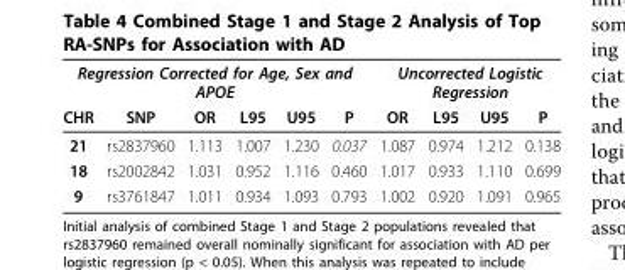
<table><thead><tr><td colspan="6">Regression Corrected for Age, Sex and APOE</td><td colspan="4">Uncorrected Logistic Regression</td></tr><tr><td>CHR</td><td>SNP</td><td>OR</td><td>L95</td><td>U95</td><td>P</td><td>OR</td><td>L95</td><td>U95</td><td>P</td></tr></thead><tbody><tr><td>21</td><td>rs2837960</td><td>1.113</td><td>1.007</td><td>1.230</td><td>0.037</td><td>1.087</td><td>0.974</td><td>1.212</td><td>0.138</td></tr><tr><td>18</td><td>rs2002842</td><td>1.031</td><td>0.952</td><td>1.116</td><td>0.460</td><td>1.017</td><td>0.933</td><td>1.110</td><td>0.699</td></tr><tr><td>9</td><td>rs3761847</td><td>1.011</td><td>0.934</td><td>1.093</td><td>0.793</td><td>1.002</td><td>0.920</td><td>1.091</td><td>0.965</td></tr></tbody></table>